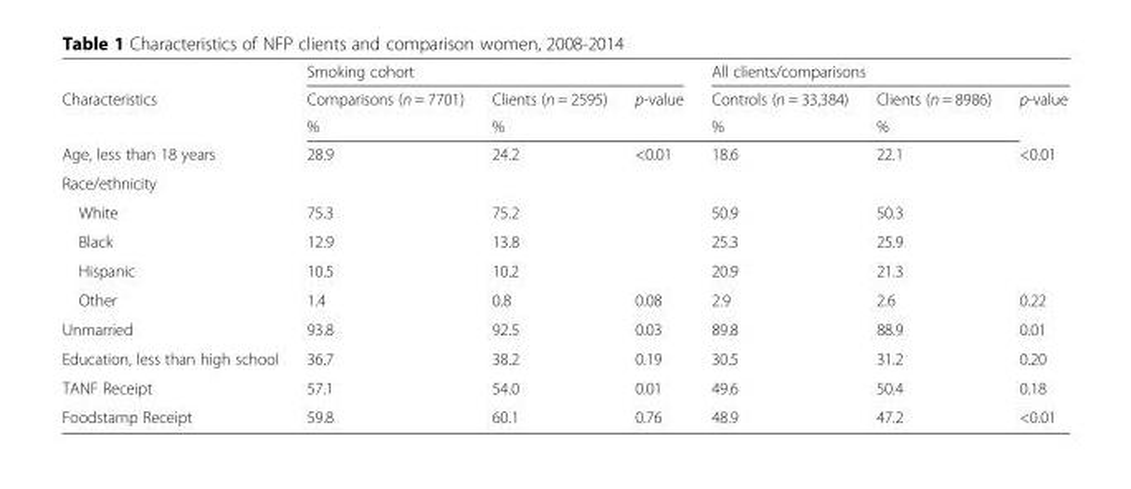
<table><thead><tr><td rowspan="3">Characteristics</td><td colspan="3">Smoking cohort</td><td colspan="3">All clients/comparisons</td></tr><tr><td rowspan="2">Comparisons (n = 7701) %</td><td rowspan="2">Clients (n = 2595) %</td><td rowspan="2">p-value</td><td rowspan="2">Controls (n = 33,384) %</td><td rowspan="2">Clients (n = 8986) %</td><td rowspan="2">p-value</td></tr><tr></tr></thead><tbody><tr><td>Age, less than 18 years</td><td>28.9</td><td>24.2</td><td>&lt;0.01</td><td>18.6</td><td>22.1</td><td>&lt;0.01</td></tr><tr><td colspan="7">Race/ethnicity</td></tr><tr><td>White</td><td>75.3</td><td>75.2</td><td></td><td>50.9</td><td>50.3</td><td></td></tr><tr><td>Black</td><td>12.9</td><td>13.8</td><td></td><td>25.3</td><td>25.9</td><td></td></tr><tr><td>Hispanic</td><td>10.5</td><td>10.2</td><td></td><td>20.9</td><td>21.3</td><td></td></tr><tr><td>Other</td><td>1.4</td><td>0.8</td><td>0.08</td><td>2.9</td><td>2.6</td><td>0.22</td></tr><tr><td>Unmarried</td><td>93.8</td><td>92.5</td><td>0.03</td><td>89.8</td><td>88.9</td><td>0.01</td></tr><tr><td>Education, less than high school</td><td>36.7</td><td>38.2</td><td>0.19</td><td>30.5</td><td>31.2</td><td>0.20</td></tr><tr><td>TANF Receipt</td><td>57.1</td><td>54.0</td><td>0.01</td><td>49.6</td><td>50.4</td><td>0.18</td></tr><tr><td>Foodstamp Receipt</td><td>59.8</td><td>60.1</td><td>0.76</td><td>48.9</td><td>47.2</td><td>&lt;0.01</td></tr></tbody></table>